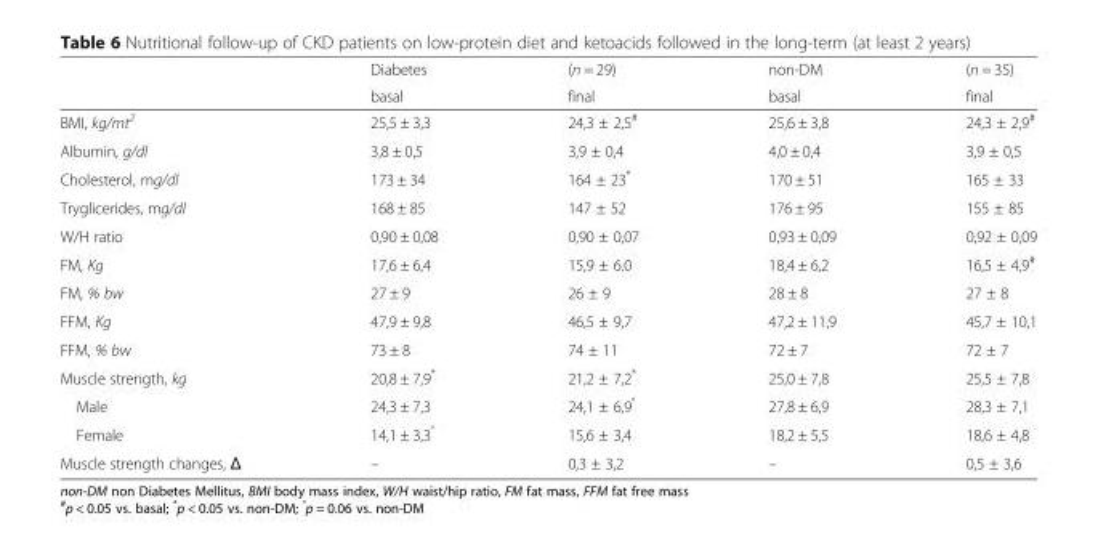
<table><thead><tr><td rowspan="2"></td><td rowspan="2">Diabetes basal</td><td rowspan="2">(n = 29) final</td><td rowspan="2">non-DM basal</td><td rowspan="2">(n = 35) final</td></tr><tr></tr></thead><tbody><tr><td>BMI, kg/mt<sup>2</sup></td><td>25,5 ± 3,3</td><td>24,3 ± 2,5<sup>#</sup></td><td>25,6 ± 3,8</td><td>24,3 ± 2,9<sup>#</sup></td></tr><tr><td>Albumin, g/dl</td><td>3,8 ± 0,5</td><td>3,9 ± 0,4</td><td>4,0 ± 0,4</td><td>3,9 ± 0,5</td></tr><tr><td>Cholesterol, mg/dl</td><td>173 ± 34</td><td>164 ± 23*</td><td>170 ± 51</td><td>165 ± 33</td></tr><tr><td>Tryglicerides, mg/dl</td><td>168 ± 85</td><td>147 ± 52</td><td>176 ± 95</td><td>155 ± 85</td></tr><tr><td>W/H ratio</td><td>0,90 ± 0,08</td><td>0,90 ± 0,07</td><td>0,93 ± 0,09</td><td>0,92 ± 0,09</td></tr><tr><td>FM, Kg</td><td>17,6 ± 6,4</td><td>15,9 ± 6.0</td><td>18,4 ± 6,2</td><td>16,5 ± 4,9<sup>#</sup></td></tr><tr><td>FM, % bw</td><td>27 ± 9</td><td>26 ± 9</td><td>28 ± 8</td><td>27 ± 8</td></tr><tr><td>FFM, Kg</td><td>47,9 ± 9,8</td><td>46,5 ± 9,7</td><td>47,2 ± 11,9</td><td>45,7 ± 10,1</td></tr><tr><td>FFM, % bw</td><td>73 ± 8</td><td>74 ± 11</td><td>72 ± 7</td><td>72 ± 7</td></tr><tr><td>Muscle strength, kg</td><td>20,8 ± 7,9*</td><td>21,2 ± 7,2*</td><td>25,0 ± 7,8</td><td>25,5 ± 7,8</td></tr><tr><td>Male</td><td>24,3 ± 7,3</td><td>24,1 ± 6,9<sup>°</sup></td><td>27,8 ± 6,9</td><td>28,3 ± 7,1</td></tr><tr><td>Female</td><td>14,1 ± 3,3<sup>°</sup></td><td>15,6 ± 3,4</td><td>18,2 ± 5,5</td><td>18,6 ± 4,8</td></tr><tr><td>Muscle strength changes, Δ</td><td>–</td><td>0,3 ± 3,2</td><td>–</td><td>0,5 ± 3,6</td></tr></tbody></table>